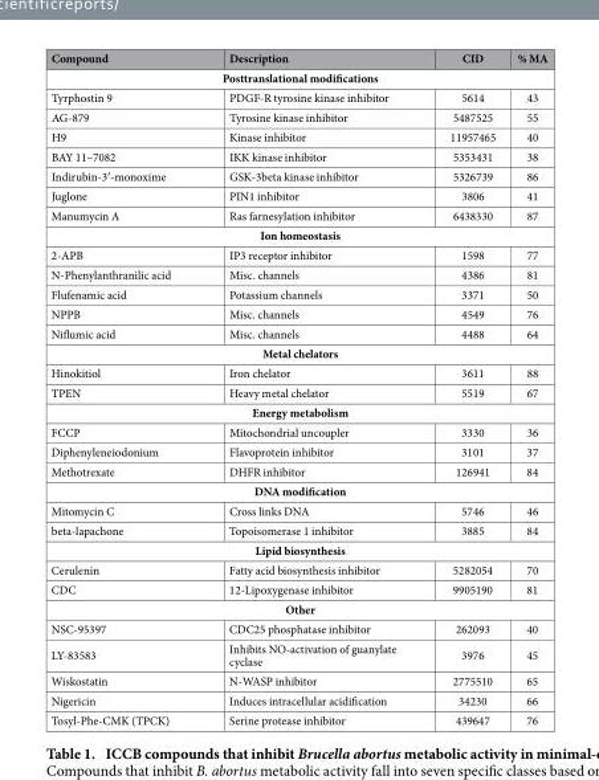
<table><thead><tr><td>Compound</td><td>Description</td><td>CID</td><td>% MA</td></tr><tr><td colspan="4">Posttranslational modifications</td></tr></thead><tbody><tr><td>Tyrphostin 9</td><td>PDGF-R tyrosine kinase inhibitor</td><td>5614</td><td>43</td></tr><tr><td>AG-879</td><td>Tyrosine kinase inhibitor</td><td>5487525</td><td>55</td></tr><tr><td>H9</td><td>Kinase inhibitor</td><td>11957465</td><td>40</td></tr><tr><td>BAY 11–7082</td><td>IKK kinase inhibitor</td><td>5353431</td><td>38</td></tr><tr><td>Indirubin-3′ -monoxime</td><td>GSK-3beta kinase inhibitor</td><td>5326739</td><td>86</td></tr><tr><td>Juglone</td><td>PIN1 inhibitor</td><td>3806</td><td>41</td></tr><tr><td>Manumycin A</td><td>Ras farnesylation inhibitor</td><td>6438330</td><td>87</td></tr><tr><td colspan="4">Ion homeostasis</td></tr><tr><td>2-APB</td><td>IP3 receptor inhibitor</td><td>1598</td><td>77</td></tr><tr><td>N-Phenylanthranilic acid</td><td>Misc. channels</td><td>4386</td><td>81</td></tr><tr><td>Flufenamic acid</td><td>Potassium channels</td><td>3371</td><td>50</td></tr><tr><td>NPPB</td><td>Misc. channels</td><td>4549</td><td>76</td></tr><tr><td>Niflumic acid</td><td>Misc. channels</td><td>4488</td><td>64</td></tr><tr><td colspan="4">Metal chelators</td></tr><tr><td>Hinokitiol</td><td>Iron chelator</td><td>3611</td><td>88</td></tr><tr><td>TPEN</td><td>Heavy metal chelator</td><td>5519</td><td>67</td></tr><tr><td colspan="4">Energy metabolism</td></tr><tr><td>FCCP</td><td>Mitochondrial uncoupler</td><td>3330</td><td>36</td></tr><tr><td>Diphenyleneiodonium</td><td>Flavoprotein inhibitor</td><td>3101</td><td>37</td></tr><tr><td>Methotrexate</td><td>DHFR inhibitor</td><td>126941</td><td>84</td></tr><tr><td colspan="4">DNA modification</td></tr><tr><td>Mitomycin C</td><td>Cross links DNA</td><td>5746</td><td>46</td></tr><tr><td>beta-lapachone</td><td>Topoisomerase 1 inhibitor</td><td>3885</td><td>84</td></tr><tr><td colspan="4">Lipid biosynthesis</td></tr><tr><td>Cerulenin</td><td>Fatty acid biosynthesis inhibitor</td><td>5282054</td><td>70</td></tr><tr><td>CDC</td><td>12-Lipoxygenase inhibitor</td><td>9905190</td><td>81</td></tr><tr><td colspan="4">Other</td></tr><tr><td>NSC-95397</td><td>CDC25 phosphatase inhibitor</td><td>262093</td><td>40</td></tr><tr><td>LY-83583</td><td>Inhibits NO-activation of guanylate cyclase</td><td>3976</td><td>45</td></tr><tr><td>Wiskostatin</td><td>N-WASP inhibitor</td><td>2775510</td><td>65</td></tr><tr><td>Nigericin</td><td>Induces intracellular acidification</td><td>34230</td><td>66</td></tr><tr><td>Tosyl-Phe-CMK (TPCK)</td><td>Serine protease inhibitor</td><td>439647</td><td>76</td></tr></tbody></table>